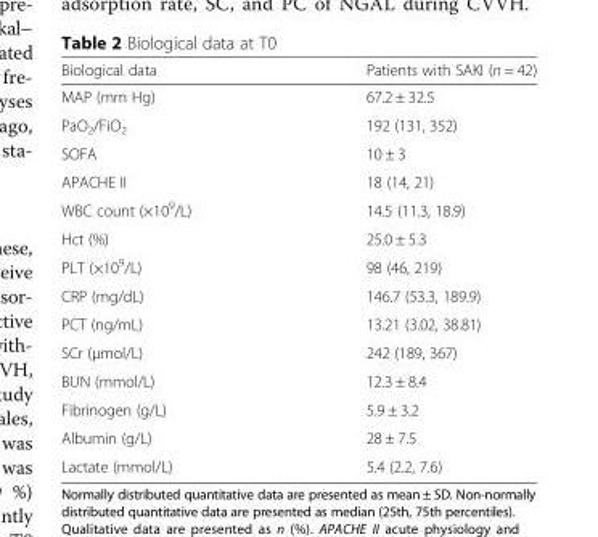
<table><thead><tr><td>Biological data</td><td>Patients with SAKI (n = 42)</td></tr></thead><tbody><tr><td>MAP (mm Hg)</td><td>67.2 ± 32.5</td></tr><tr><td>PaO<sub>2</sub>/FiO<sub>2</sub></td><td>192 (131, 352)</td></tr><tr><td>SOFA</td><td>10 ± 3</td></tr><tr><td>APACHE II</td><td>18 (14, 21)</td></tr><tr><td>WBC count (×10<sup>9</sup>/L)</td><td>14.5 (11.3, 18.9)</td></tr><tr><td>Hct (%)</td><td>25.0 ± 5.3</td></tr><tr><td>PLT (×10<sup>9</sup>/L)</td><td>98 (46, 219)</td></tr><tr><td>CRP (mg/dL)</td><td>146.7 (53.3, 189.9)</td></tr><tr><td>PCT (ng/mL)</td><td>13.21 (3.02, 38.81)</td></tr><tr><td>SCr (μmol/L)</td><td>242 (189, 367)</td></tr><tr><td>BUN (mmol/L)</td><td>12.3 ± 8.4</td></tr><tr><td>Fibrinogen (g/L)</td><td>5.9 ± 3.2</td></tr><tr><td>Albumin (g/L)</td><td>28 ± 7.5</td></tr><tr><td>Lactate (mmol/L)</td><td>5.4 (2.2, 7.6)</td></tr></tbody></table>